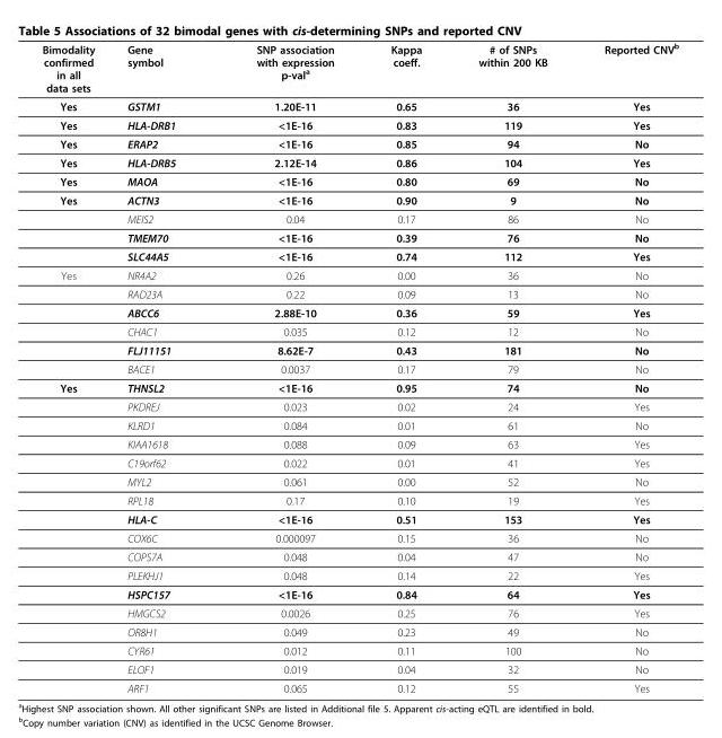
<table><thead><tr><td>Bimodality confirmed in all data sets</td><td>Gene symbol</td><td>SNP association with expression p-val<sup>a</sup></td><td>Kappa coeff.</td><td># of SNPs within 200 KB</td><td>Reported CNV<sup>b</sup></td></tr></thead><tbody><tr><td>Yes</td><td>GSTM1</td><td>1.20E-11</td><td>0.65</td><td>36</td><td>Yes</td></tr><tr><td>Yes</td><td>HLA-DRB1</td><td>&lt;1E-16</td><td>0.83</td><td>119</td><td>Yes</td></tr><tr><td>Yes</td><td>ERAP2</td><td>&lt;1E-16</td><td>0.85</td><td>94</td><td>No</td></tr><tr><td>Yes</td><td>HLA-DRB5</td><td>2.12E-14</td><td>0.86</td><td>104</td><td>Yes</td></tr><tr><td>Yes</td><td>MAOA</td><td>&lt;1E-16</td><td>0.80</td><td>69</td><td>No</td></tr><tr><td rowspan="4">Yes</td><td>ACTN3</td><td>&lt;1E-16</td><td>0.90</td><td>9</td><td>No</td></tr><tr><td>MEIS2</td><td>0.04</td><td>0.17</td><td>86</td><td>No</td></tr><tr><td>TMEM70</td><td>&lt;1E-16</td><td>0.39</td><td>76</td><td>No</td></tr><tr><td>SLC44A5</td><td>&lt;1E-16</td><td>0.74</td><td>112</td><td>Yes</td></tr><tr><td rowspan="6">Yes</td><td>NR4A2</td><td>0.26</td><td>0.00</td><td>36</td><td>No</td></tr><tr><td>RAD23A</td><td>0.22</td><td>0.09</td><td>13</td><td>No</td></tr><tr><td>ABCC6</td><td>2.88E-10</td><td>0.36</td><td>59</td><td>Yes</td></tr><tr><td>CHAC1</td><td>0.035</td><td>0.12</td><td>12</td><td>No</td></tr><tr><td>FLJ11151</td><td>8.62E-7</td><td>0.43</td><td>181</td><td>No</td></tr><tr><td>BACE1</td><td>0.0037</td><td>0.17</td><td>79</td><td>No</td></tr><tr><td rowspan="17">Yes</td><td>THNSL2</td><td>&lt;1E-16</td><td>0.95</td><td>74</td><td>No</td></tr><tr><td>PKDREJ</td><td>0.023</td><td>0.02</td><td>24</td><td>Yes</td></tr><tr><td>KLRD1</td><td>0.084</td><td>0.01</td><td>61</td><td>No</td></tr><tr><td>KIAA1618</td><td>0.088</td><td>0.09</td><td>63</td><td>Yes</td></tr><tr><td>C19orf62</td><td>0.022</td><td>0.01</td><td>41</td><td>Yes</td></tr><tr><td>MYL2</td><td>0.061</td><td>0.00</td><td>52</td><td>No</td></tr><tr><td>RPL18</td><td>0.17</td><td>0.10</td><td>19</td><td>Yes</td></tr><tr><td>HLA-C</td><td>&lt;1E-16</td><td>0.51</td><td>153</td><td>Yes</td></tr><tr><td>COX6C</td><td>0.000097</td><td>0.15</td><td>36</td><td>No</td></tr><tr><td>COPS7A</td><td>0.048</td><td>0.04</td><td>47</td><td>No</td></tr><tr><td>PLEKHJ1</td><td>0.048</td><td>0.14</td><td>22</td><td>Yes</td></tr><tr><td>HSPC157</td><td>&lt;1E-16</td><td>0.84</td><td>64</td><td>Yes</td></tr><tr><td>HMGCS2</td><td>0.0026</td><td>0.25</td><td>76</td><td>Yes</td></tr><tr><td>OR8H1</td><td>0.049</td><td>0.23</td><td>49</td><td>No</td></tr><tr><td>CYR61</td><td>0.012</td><td>0.11</td><td>100</td><td>No</td></tr><tr><td>ELOF1</td><td>0.019</td><td>0.04</td><td>32</td><td>No</td></tr><tr><td>ARF1</td><td>0.065</td><td>0.12</td><td>55</td><td>Yes</td></tr></tbody></table>